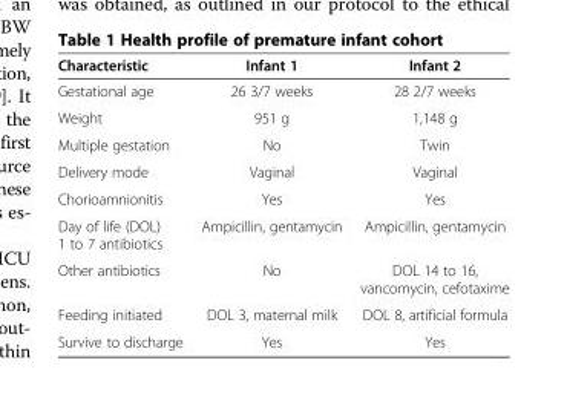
<table><thead><tr><td>Characteristic</td><td>Infant 1</td><td>Infant 2</td></tr></thead><tbody><tr><td>Gestational age</td><td>26 3/7 weeks</td><td>28 2/7 weeks</td></tr><tr><td>Weight</td><td>951 g</td><td>1,148 g</td></tr><tr><td>Multiple gestation</td><td>No</td><td>Twin</td></tr><tr><td>Delivery mode</td><td>Vaginal</td><td>Vaginal</td></tr><tr><td>Chorioamnionitis</td><td>Yes</td><td>Yes</td></tr><tr><td>Day of life (DOL) 1 to 7 antibiotics</td><td>Ampicillin, gentamycin</td><td>Ampicillin, gentamycin</td></tr><tr><td>Other antibiotics</td><td>No</td><td>DOL 14 to 16, vancomycin, cefotaxime</td></tr><tr><td>Feeding initiated</td><td>DOL 3, maternal milk</td><td>DOL 8, artificial formula</td></tr><tr><td>Survive to discharge</td><td>Yes</td><td>Yes</td></tr></tbody></table>